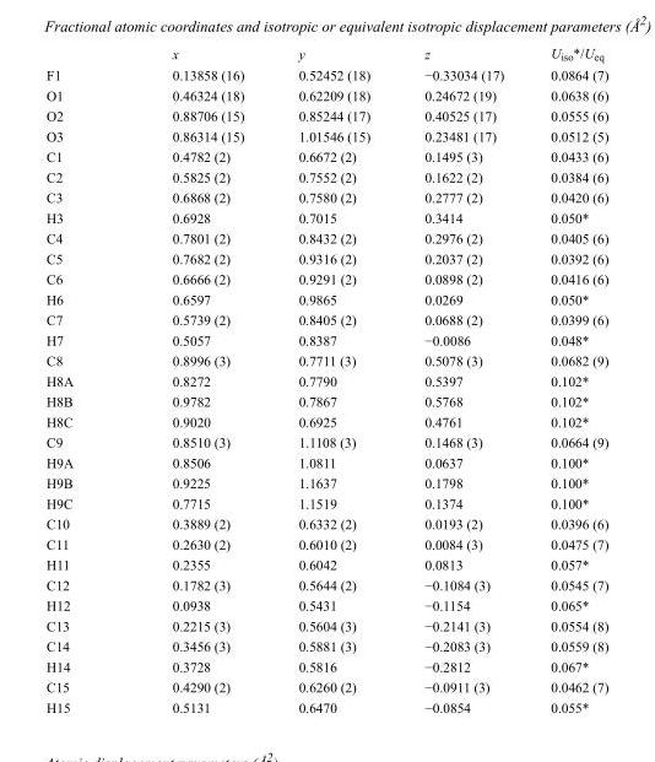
<table><thead><tr><td></td><td>x</td><td>y</td><td>z</td><td>U<sub>iso</sub>*/U<sub>eq</sub></td></tr></thead><tbody><tr><td>F1</td><td>0.13858 (16)</td><td>0.52452 (18)</td><td>−0.33034 (17)</td><td>0.0864 (7)</td></tr><tr><td>O1</td><td>0.46324 (18)</td><td>0.62209 (18)</td><td>0.24672 (19)</td><td>0.0638 (6)</td></tr><tr><td>O2</td><td>0.88706 (15)</td><td>0.85244 (17)</td><td>0.40525 (17)</td><td>0.0555 (6)</td></tr><tr><td>O3</td><td>0.86314 (15)</td><td>1.01546 (15)</td><td>0.23481 (17)</td><td>0.0512 (5)</td></tr><tr><td>C1</td><td>0.4782 (2)</td><td>0.6672 (2)</td><td>0.1495 (3)</td><td>0.0433 (6)</td></tr><tr><td>C2</td><td>0.5825 (2)</td><td>0.7552 (2)</td><td>0.1622 (2)</td><td>0.0384 (6)</td></tr><tr><td>C3</td><td>0.6868 (2)</td><td>0.7580 (2)</td><td>0.2777 (2)</td><td>0.0420 (6)</td></tr><tr><td>H3</td><td>0.6928</td><td>0.7015</td><td>0.3414</td><td>0.050*</td></tr><tr><td>C4</td><td>0.7801 (2)</td><td>0.8432 (2)</td><td>0.2976 (2)</td><td>0.0405 (6)</td></tr><tr><td>C5</td><td>0.7682 (2)</td><td>0.9316 (2)</td><td>0.2037 (2)</td><td>0.0392 (6)</td></tr><tr><td>C6</td><td>0.6666 (2)</td><td>0.9291 (2)</td><td>0.0898 (2)</td><td>0.0416 (6)</td></tr><tr><td>H6</td><td>0.6597</td><td>0.9865</td><td>0.0269</td><td>0.050*</td></tr><tr><td>C7</td><td>0.5739 (2)</td><td>0.8405 (2)</td><td>0.0688 (2)</td><td>0.0399 (6)</td></tr><tr><td>H7</td><td>0.5057</td><td>0.8387</td><td>−0.0086</td><td>0.048*</td></tr><tr><td>C8</td><td>0.8996 (3)</td><td>0.7711 (3)</td><td>0.5078 (3)</td><td>0.0682 (9)</td></tr><tr><td>H8A</td><td>0.8272</td><td>0.7790</td><td>0.5397</td><td>0.102*</td></tr><tr><td>H8B</td><td>0.9782</td><td>0.7867</td><td>0.5768</td><td>0.102*</td></tr><tr><td>H8C</td><td>0.9020</td><td>0.6925</td><td>0.4761</td><td>0.102*</td></tr><tr><td>C9</td><td>0.8510 (3)</td><td>1.1108 (3)</td><td>0.1468 (3)</td><td>0.0664 (9)</td></tr><tr><td>H9A</td><td>0.8506</td><td>1.0811</td><td>0.0637</td><td>0.100*</td></tr><tr><td>H9B</td><td>0.9225</td><td>1.1637</td><td>0.1798</td><td>0.100*</td></tr><tr><td>H9C</td><td>0.7715</td><td>1.1519</td><td>0.1374</td><td>0.100*</td></tr><tr><td>C10</td><td>0.3889 (2)</td><td>0.6332 (2)</td><td>0.0193 (2)</td><td>0.0396 (6)</td></tr><tr><td>C11</td><td>0.2630 (2)</td><td>0.6010 (2)</td><td>0.0084 (3)</td><td>0.0475 (7)</td></tr><tr><td>H11</td><td>0.2355</td><td>0.6042</td><td>0.0813</td><td>0.057*</td></tr><tr><td>C12</td><td>0.1782 (3)</td><td>0.5644 (2)</td><td>−0.1084 (3)</td><td>0.0545 (7)</td></tr><tr><td>H12</td><td>0.0938</td><td>0.5431</td><td>−0.1154</td><td>0.065*</td></tr><tr><td>C13</td><td>0.2215 (3)</td><td>0.5604 (3)</td><td>−0.2141 (3)</td><td>0.0554 (8)</td></tr><tr><td>C14</td><td>0.3456 (3)</td><td>0.5881 (3)</td><td>−0.2083 (3)</td><td>0.0559 (8)</td></tr><tr><td>H14</td><td>0.3728</td><td>0.5816</td><td>−0.2812</td><td>0.067*</td></tr><tr><td>C15</td><td>0.4290 (2)</td><td>0.6260 (2)</td><td>−0.0911 (3)</td><td>0.0462 (7)</td></tr><tr><td>H15</td><td>0.5131</td><td>0.6470</td><td>−0.0854</td><td>0.055*</td></tr></tbody></table>